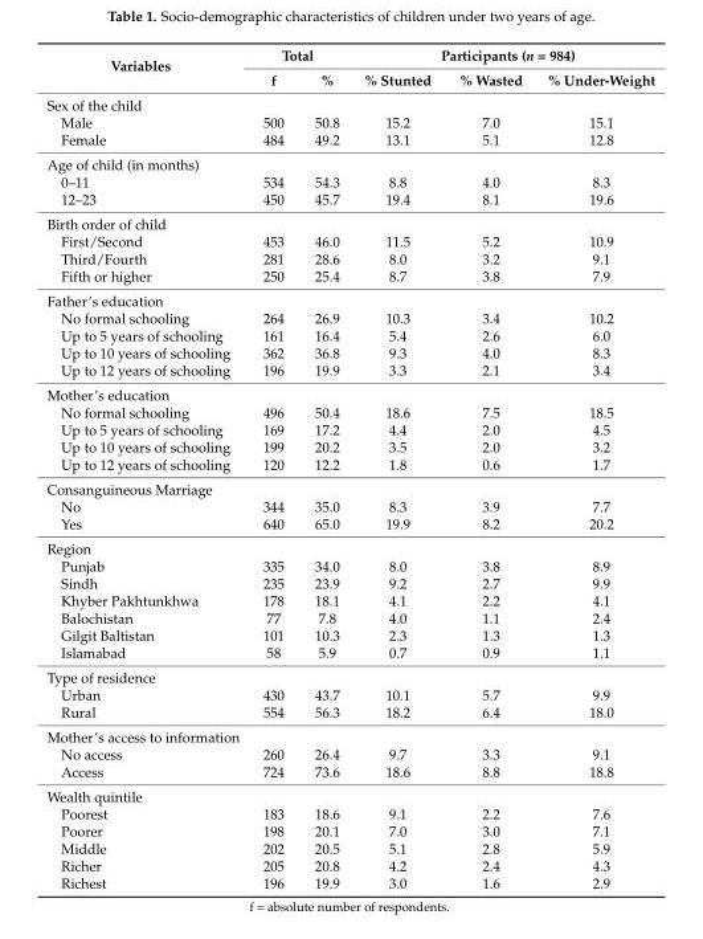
<table><thead><tr><td rowspan="2">Variables</td><td colspan="2">Total</td><td colspan="3">Participants (n = 984)</td></tr><tr><td>f</td><td>%</td><td>% Stunted</td><td>% Wasted</td><td>% Under-Weight</td></tr></thead><tbody><tr><td colspan="6">Sex of the child</td></tr><tr><td>Male</td><td>500</td><td>50.8</td><td>15.2</td><td>7.0</td><td>15.1</td></tr><tr><td>Female</td><td>484</td><td>49.2</td><td>13.1</td><td>5.1</td><td>12.8</td></tr><tr><td colspan="6">Age of child (in months)</td></tr><tr><td>0–11</td><td>534</td><td>54.3</td><td>8.8</td><td>4.0</td><td>8.3</td></tr><tr><td>12–23</td><td>450</td><td>45.7</td><td>19.4</td><td>8.1</td><td>19.6</td></tr><tr><td colspan="6">Birth order of child</td></tr><tr><td>First/Second</td><td>453</td><td>46.0</td><td>11.5</td><td>5.2</td><td>10.9</td></tr><tr><td>Third/Fourth</td><td>281</td><td>28.6</td><td>8.0</td><td>3.2</td><td>9.1</td></tr><tr><td>Fifth or higher</td><td>250</td><td>25.4</td><td>8.7</td><td>3.8</td><td>7.9</td></tr><tr><td colspan="6">Father’s education</td></tr><tr><td>No formal schooling</td><td>264</td><td>26.9</td><td>10.3</td><td>3.4</td><td>10.2</td></tr><tr><td>Up to 5 years of schooling</td><td>161</td><td>16.4</td><td>5.4</td><td>2.6</td><td>6.0</td></tr><tr><td>Up to 10 years of schooling</td><td>362</td><td>36.8</td><td>9.3</td><td>4.0</td><td>8.3</td></tr><tr><td>Up to 12 years of schooling</td><td>196</td><td>19.9</td><td>3.3</td><td>2.1</td><td>3.4</td></tr><tr><td colspan="6">Mother’s education</td></tr><tr><td>No formal schooling</td><td>496</td><td>50.4</td><td>18.6</td><td>7.5</td><td>18.5</td></tr><tr><td>Up to 5 years of schooling</td><td>169</td><td>17.2</td><td>4.4</td><td>2.0</td><td>4.5</td></tr><tr><td>Up to 10 years of schooling</td><td>199</td><td>20.2</td><td>3.5</td><td>2.0</td><td>3.2</td></tr><tr><td>Up to 12 years of schooling</td><td>120</td><td>12.2</td><td>1.8</td><td>0.6</td><td>1.7</td></tr><tr><td colspan="6">Consanguineous Marriage</td></tr><tr><td>No</td><td>344</td><td>35.0</td><td>8.3</td><td>3.9</td><td>7.7</td></tr><tr><td>Yes</td><td>640</td><td>65.0</td><td>19.9</td><td>8.2</td><td>20.2</td></tr><tr><td colspan="6">Region</td></tr><tr><td>Punjab</td><td>335</td><td>34.0</td><td>8.0</td><td>3.8</td><td>8.9</td></tr><tr><td>Sindh</td><td>235</td><td>23.9</td><td>9.2</td><td>2.7</td><td>9.9</td></tr><tr><td>Khyber Pakhtunkhwa</td><td>178</td><td>18.1</td><td>4.1</td><td>2.2</td><td>4.1</td></tr><tr><td>Balochistan</td><td>77</td><td>7.8</td><td>4.0</td><td>1.1</td><td>2.4</td></tr><tr><td>Gilgit Baltistan</td><td>101</td><td>10.3</td><td>2.3</td><td>1.3</td><td>1.3</td></tr><tr><td>Islamabad</td><td>58</td><td>5.9</td><td>0.7</td><td>0.9</td><td>1.1</td></tr><tr><td colspan="6">Type of residence</td></tr><tr><td>Urban</td><td>430</td><td>43.7</td><td>10.1</td><td>5.7</td><td>9.9</td></tr><tr><td>Rural</td><td>554</td><td>56.3</td><td>18.2</td><td>6.4</td><td>18.0</td></tr><tr><td colspan="6">Mother’s access to information</td></tr><tr><td>No access</td><td>260</td><td>26.4</td><td>9.7</td><td>3.3</td><td>9.1</td></tr><tr><td>Access</td><td>724</td><td>73.6</td><td>18.6</td><td>8.8</td><td>18.8</td></tr><tr><td colspan="6">Wealth quintile</td></tr><tr><td>Poorest</td><td>183</td><td>18.6</td><td>9.1</td><td>2.2</td><td>7.6</td></tr><tr><td>Poorer</td><td>198</td><td>20.1</td><td>7.0</td><td>3.0</td><td>7.1</td></tr><tr><td>Middle</td><td>202</td><td>20.5</td><td>5.1</td><td>2.8</td><td>5.9</td></tr><tr><td>Richer</td><td>205</td><td>20.8</td><td>4.2</td><td>2.4</td><td>4.3</td></tr><tr><td>Richest</td><td>196</td><td>19.9</td><td>3.0</td><td>1.6</td><td>2.9</td></tr></tbody></table>